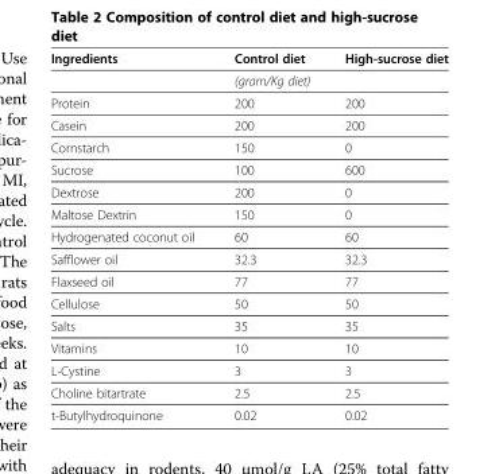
<table><thead><tr><td>Ingredients</td><td>Control diet</td><td>High-sucrose diet</td></tr></thead><tbody><tr><td></td><td colspan="2">(gram/Kg diet)</td></tr><tr><td>Protein</td><td>200</td><td>200</td></tr><tr><td>Casein</td><td>200</td><td>200</td></tr><tr><td>Cornstarch</td><td>150</td><td>0</td></tr><tr><td>Sucrose</td><td>100</td><td>600</td></tr><tr><td>Dextrose</td><td>200</td><td>0</td></tr><tr><td>Maltose Dextrin</td><td>150</td><td>0</td></tr><tr><td>Hydrogenated coconut oil</td><td>60</td><td>60</td></tr><tr><td>Safflower oil</td><td>32.3</td><td>32.3</td></tr><tr><td>Flaxseed oil</td><td>77</td><td>77</td></tr><tr><td>Cellulose</td><td>50</td><td>50</td></tr><tr><td>Salts</td><td>35</td><td>35</td></tr><tr><td>Vitamins</td><td>10</td><td>10</td></tr><tr><td>L-Cystine</td><td>3</td><td>3</td></tr><tr><td>Choline bitartrate</td><td>2.5</td><td>2.5</td></tr><tr><td>t-Butylhydroquinone</td><td>0.02</td><td>0.02</td></tr></tbody></table>